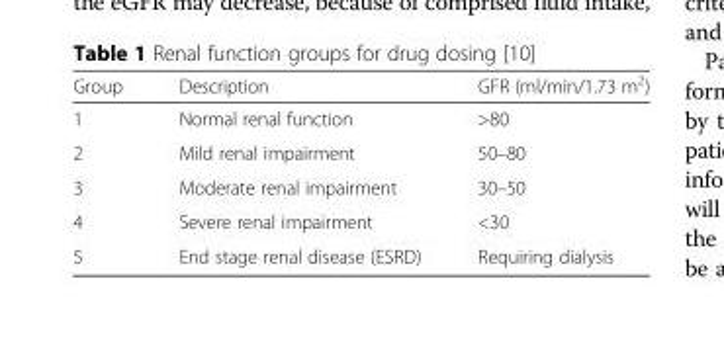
<table><thead><tr><td>Group</td><td>Description</td><td>GFR (ml/min/1.73 m<sup>2</sup>)</td></tr></thead><tbody><tr><td>1</td><td>Normal renal function</td><td>&gt;80</td></tr><tr><td>2</td><td>Mild renal impairment</td><td>50–80</td></tr><tr><td>3</td><td>Moderate renal impairment</td><td>30–50</td></tr><tr><td>4</td><td>Severe renal impairment</td><td>&lt;30</td></tr><tr><td>5</td><td>End stage renal disease (ESRD)</td><td>Requiring dialysis</td></tr></tbody></table>